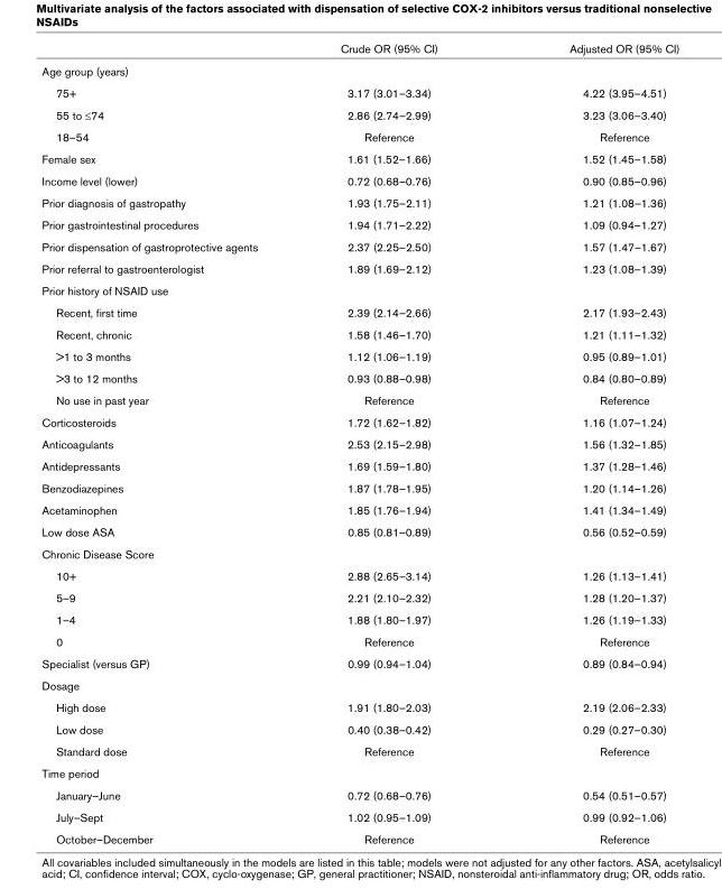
<table><thead><tr><td></td><td>Crude OR (95% CI)</td><td>Adjusted OR (95% CI)</td></tr></thead><tbody><tr><td colspan="3">Age group (years)</td></tr><tr><td>75+</td><td>3.17 (3.01–3.34)</td><td>4.22 (3.95–4.51)</td></tr><tr><td>55 to ≤74</td><td>2.86 (2.74–2.99)</td><td>3.23 (3.06–3.40)</td></tr><tr><td>18–54</td><td>Reference</td><td>Reference</td></tr><tr><td>Female sex</td><td>1.61 (1.52–1.66)</td><td>1.52 (1.45–1.58)</td></tr><tr><td>Income level (lower)</td><td>0.72 (0.68–0.76)</td><td>0.90 (0.85–0.96)</td></tr><tr><td>Prior diagnosis of gastropathy</td><td>1.93 (1.75–2.11)</td><td>1.21 (1.08–1.36)</td></tr><tr><td>Prior gastrointestinal procedures</td><td>1.94 (1.71–2.22)</td><td>1.09 (0.94–1.27)</td></tr><tr><td>Prior dispensation of gastroprotective agents</td><td>2.37 (2.25–2.50)</td><td>1.57 (1.47–1.67)</td></tr><tr><td>Prior referral to gastroenterologist</td><td>1.89 (1.69–2.12)</td><td>1.23 (1.08–1.39)</td></tr><tr><td colspan="3">Prior history of NSAID use</td></tr><tr><td>Recent, first time</td><td>2.39 (2.14–2.66)</td><td>2.17 (1.93–2.43)</td></tr><tr><td>Recent, chronic</td><td>1.58 (1.46–1.70)</td><td>1.21 (1.11–1.32)</td></tr><tr><td>&gt;1 to 3 months</td><td>1.12 (1.06–1.19)</td><td>0.95 (0.89–1.01)</td></tr><tr><td>&gt;3 to 12 months</td><td>0.93 (0.88–0.98)</td><td>0.84 (0.80–0.89)</td></tr><tr><td>No use in past year</td><td>Reference</td><td>Reference</td></tr><tr><td>Corticosteroids</td><td>1.72 (1.62–1.82)</td><td>1.16 (1.07–1.24)</td></tr><tr><td>Anticoagulants</td><td>2.53 (2.15–2.98)</td><td>1.56 (1.32–1.85)</td></tr><tr><td>Antidepressants</td><td>1.69 (1.59–1.80)</td><td>1.37 (1.28–1.46)</td></tr><tr><td>Benzodiazepines</td><td>1.87 (1.78–1.95)</td><td>1.20 (1.14–1.26)</td></tr><tr><td>Acetaminophen</td><td>1.85 (1.76–1.94)</td><td>1.41 (1.34–1.49)</td></tr><tr><td>Low dose ASA</td><td>0.85 (0.81–0.89)</td><td>0.56 (0.52–0.59)</td></tr><tr><td colspan="3">Chronic Disease Score</td></tr><tr><td>10+</td><td>2.88 (2.65–3.14)</td><td>1.26 (1.13–1.41)</td></tr><tr><td>5–9</td><td>2.21 (2.10–2.32)</td><td>1.28 (1.20–1.37)</td></tr><tr><td>1–4</td><td>1.88 (1.80–1.97)</td><td>1.26 (1.19–1.33)</td></tr><tr><td>0</td><td>Reference</td><td>Reference</td></tr><tr><td>Specialist (versus GP)</td><td>0.99 (0.94–1.04)</td><td>0.89 (0.84–0.94)</td></tr><tr><td colspan="3">Dosage</td></tr><tr><td>High dose</td><td>1.91 (1.80–2.03)</td><td>2.19 (2.06–2.33)</td></tr><tr><td>Low dose</td><td>0.40 (0.38–0.42)</td><td>0.29 (0.27–0.30)</td></tr><tr><td>Standard dose</td><td>Reference</td><td>Reference</td></tr><tr><td colspan="3">Time period</td></tr><tr><td>January–June</td><td>0.72 (0.68–0.76)</td><td>0.54 (0.51–0.57)</td></tr><tr><td>July–Sept</td><td>1.02 (0.95–1.09)</td><td>0.99 (0.92–1.06)</td></tr><tr><td>October–December</td><td>Reference</td><td>Reference</td></tr></tbody></table>